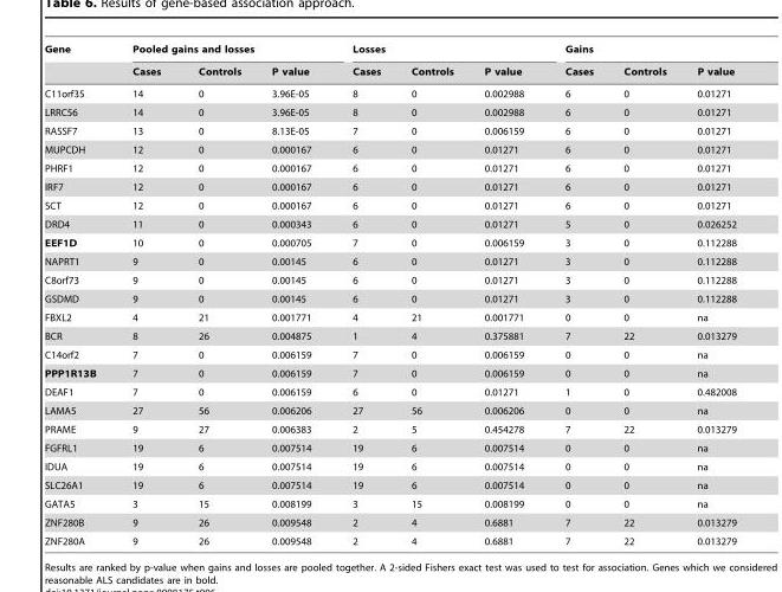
<table><thead><tr><td rowspan="2">Gene</td><td colspan="3">Pooled gains and losses</td><td colspan="3">Losses</td><td colspan="3">Gains</td></tr><tr><td>Cases</td><td>Controls</td><td>P value</td><td>Cases</td><td>Controls</td><td>P value</td><td>Cases</td><td>Controls</td><td>P value</td></tr></thead><tbody><tr><td>C11orf35</td><td>14</td><td>0</td><td>3.96E-05</td><td>8</td><td>0</td><td>0.002988</td><td>6</td><td>0</td><td>0.01271</td></tr><tr><td>LRRC56</td><td>14</td><td>0</td><td>3.96E-05</td><td>8</td><td>0</td><td>0.002988</td><td>6</td><td>0</td><td>0.01271</td></tr><tr><td>RASSF7</td><td>13</td><td>0</td><td>8.13E-05</td><td>7</td><td>0</td><td>0.006159</td><td>6</td><td>0</td><td>0.01271</td></tr><tr><td>MUPCDH</td><td>12</td><td>0</td><td>0.000167</td><td>6</td><td>0</td><td>0.01271</td><td>6</td><td>0</td><td>0.01271</td></tr><tr><td>PHRF1</td><td>12</td><td>0</td><td>0.000167</td><td>6</td><td>0</td><td>0.01271</td><td>6</td><td>0</td><td>0.01271</td></tr><tr><td>IRF7</td><td>12</td><td>0</td><td>0.000167</td><td>6</td><td>0</td><td>0.01271</td><td>6</td><td>0</td><td>0.01271</td></tr><tr><td>SCT</td><td>12</td><td>0</td><td>0.000167</td><td>6</td><td>0</td><td>0.01271</td><td>6</td><td>0</td><td>0.01271</td></tr><tr><td>DRD4</td><td>11</td><td>0</td><td>0.000343</td><td>6</td><td>0</td><td>0.01271</td><td>5</td><td>0</td><td>0.026252</td></tr><tr><td>EEF1D</td><td>10</td><td>0</td><td>0.000705</td><td>7</td><td>0</td><td>0.006159</td><td>3</td><td>0</td><td>0.112288</td></tr><tr><td>NAPRT1</td><td>9</td><td>0</td><td>0.00145</td><td>6</td><td>0</td><td>0.01271</td><td>3</td><td>0</td><td>0.112288</td></tr><tr><td>C8orf73</td><td>9</td><td>0</td><td>0.00145</td><td>6</td><td>0</td><td>0.01271</td><td>3</td><td>0</td><td>0.112288</td></tr><tr><td>GSDMD</td><td>9</td><td>0</td><td>0.00145</td><td>6</td><td>0</td><td>0.01271</td><td>3</td><td>0</td><td>0.112288</td></tr><tr><td>FBXL2</td><td>4</td><td>21</td><td>0.001771</td><td>4</td><td>21</td><td>0.001771</td><td>0</td><td>0</td><td>na</td></tr><tr><td>BCR</td><td>8</td><td>26</td><td>0.004875</td><td>1</td><td>4</td><td>0.375881</td><td>7</td><td>22</td><td>0.013279</td></tr><tr><td>C14orf2</td><td>7</td><td>0</td><td>0.006159</td><td>7</td><td>0</td><td>0.006159</td><td>0</td><td>0</td><td>na</td></tr><tr><td>PPP1R13B</td><td>7</td><td>0</td><td>0.006159</td><td>7</td><td>0</td><td>0.006159</td><td>0</td><td>0</td><td>na</td></tr><tr><td>DEAF1</td><td>7</td><td>0</td><td>0.006159</td><td>6</td><td>0</td><td>0.01271</td><td>1</td><td>0</td><td>0.482008</td></tr><tr><td>LAMA5</td><td>27</td><td>56</td><td>0.006206</td><td>27</td><td>56</td><td>0.006206</td><td>0</td><td>0</td><td>na</td></tr><tr><td>PRAME</td><td>9</td><td>27</td><td>0.006383</td><td>2</td><td>5</td><td>0.454278</td><td>7</td><td>22</td><td>0.013279</td></tr><tr><td>FGFRL1</td><td>19</td><td>6</td><td>0.007514</td><td>19</td><td>6</td><td>0.007514</td><td>0</td><td>0</td><td>na</td></tr><tr><td>IDUA</td><td>19</td><td>6</td><td>0.007514</td><td>19</td><td>6</td><td>0.007514</td><td>0</td><td>0</td><td>na</td></tr><tr><td>SLC26A1</td><td>19</td><td>6</td><td>0.007514</td><td>19</td><td>6</td><td>0.007514</td><td>0</td><td>0</td><td>na</td></tr><tr><td>GATA5</td><td>3</td><td>15</td><td>0.008199</td><td>3</td><td>15</td><td>0.008199</td><td>0</td><td>0</td><td>na</td></tr><tr><td>ZNF280B</td><td>9</td><td>26</td><td>0.009548</td><td>2</td><td>4</td><td>0.6881</td><td>7</td><td>22</td><td>0.013279</td></tr><tr><td>ZNF280A</td><td>9</td><td>26</td><td>0.009548</td><td>2</td><td>4</td><td>0.6881</td><td>7</td><td>22</td><td>0.013279</td></tr></tbody></table>